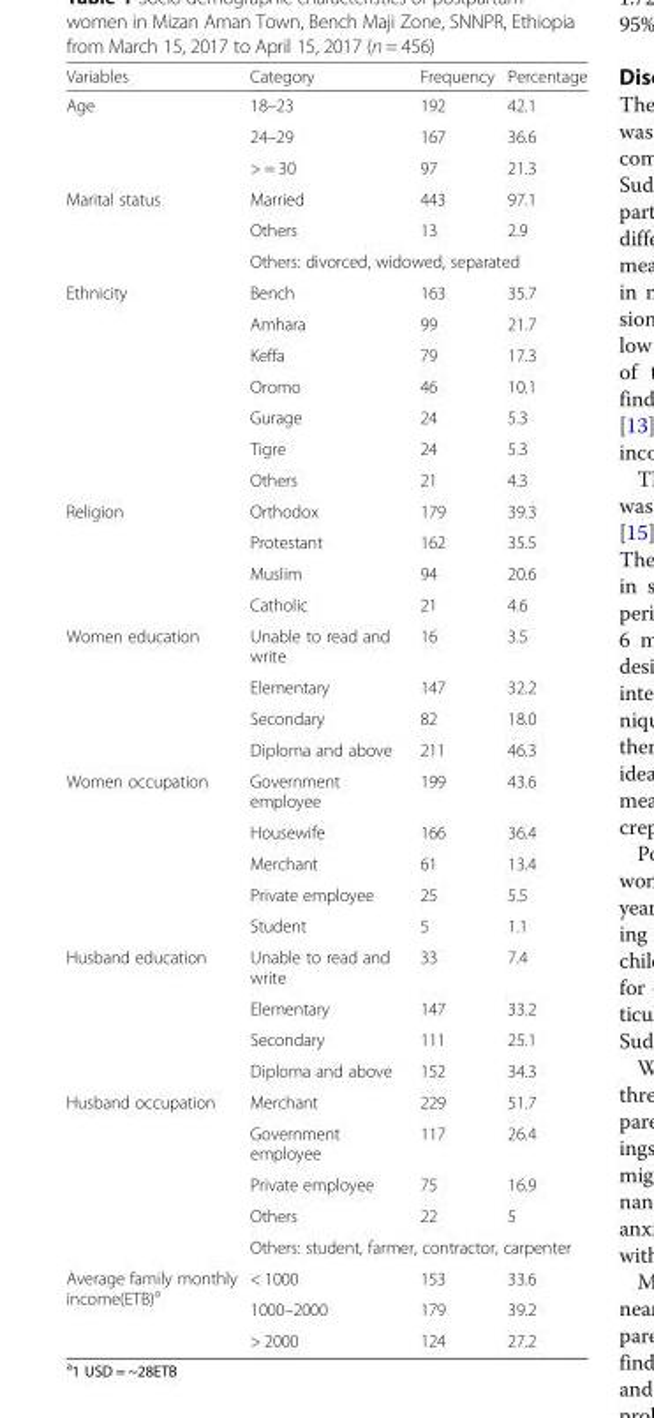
<table><thead><tr><td>Variables</td><td>Category</td><td>Frequency</td><td>Percentage</td></tr></thead><tbody><tr><td rowspan="3">Age</td><td>18–23</td><td>192</td><td>42.1</td></tr><tr><td>24–29</td><td>167</td><td>36.6</td></tr><tr><td>&gt; = 30</td><td>97</td><td>21.3</td></tr><tr><td rowspan="3">Marital status</td><td>Married</td><td>443</td><td>97.1</td></tr><tr><td>Others</td><td>13</td><td>2.9</td></tr><tr><td colspan="3">Others: divorced, widowed, separated</td></tr><tr><td rowspan="7">Ethnicity</td><td>Bench</td><td>163</td><td>35.7</td></tr><tr><td>Amhara</td><td>99</td><td>21.7</td></tr><tr><td>Keffa</td><td>79</td><td>17.3</td></tr><tr><td>Oromo</td><td>46</td><td>10.1</td></tr><tr><td>Gurage</td><td>24</td><td>5.3</td></tr><tr><td>Tigre</td><td>24</td><td>5.3</td></tr><tr><td>Others</td><td>21</td><td>4.3</td></tr><tr><td rowspan="4">Religion</td><td>Orthodox</td><td>179</td><td>39.3</td></tr><tr><td>Protestant</td><td>162</td><td>35.5</td></tr><tr><td>Muslim</td><td>94</td><td>20.6</td></tr><tr><td>Catholic</td><td>21</td><td>4.6</td></tr><tr><td rowspan="4">Women education</td><td>Unable to read and write</td><td>16</td><td>3.5</td></tr><tr><td>Elementary</td><td>147</td><td>32.2</td></tr><tr><td>Secondary</td><td>82</td><td>18.0</td></tr><tr><td>Diploma and above</td><td>211</td><td>46.3</td></tr><tr><td rowspan="5">Women occupation</td><td>Government employee</td><td>199</td><td>43.6</td></tr><tr><td>Housewife</td><td>166</td><td>36.4</td></tr><tr><td>Merchant</td><td>61</td><td>13.4</td></tr><tr><td>Private employee</td><td>25</td><td>5.5</td></tr><tr><td>Student</td><td>5</td><td>1.1</td></tr><tr><td rowspan="4">Husband education</td><td>Unable to read and write</td><td>33</td><td>7.4</td></tr><tr><td>Elementary</td><td>147</td><td>33.2</td></tr><tr><td>Secondary</td><td>111</td><td>25.1</td></tr><tr><td>Diploma and above</td><td>152</td><td>34.3</td></tr><tr><td rowspan="5">Husband occupation</td><td>Merchant</td><td>229</td><td>51.7</td></tr><tr><td>Government employee</td><td>117</td><td>26.4</td></tr><tr><td>Private employee</td><td>75</td><td>16.9</td></tr><tr><td>Others</td><td>22</td><td>5</td></tr><tr><td colspan="3">Others: student, farmer, contractor, carpenter</td></tr><tr><td rowspan="3">Average family monthly income(ETB)<sup>a</sup></td><td>&lt; 1000</td><td>153</td><td>33.6</td></tr><tr><td>1000–2000</td><td>179</td><td>39.2</td></tr><tr><td>&gt; 2000</td><td>124</td><td>27.2</td></tr></tbody></table>